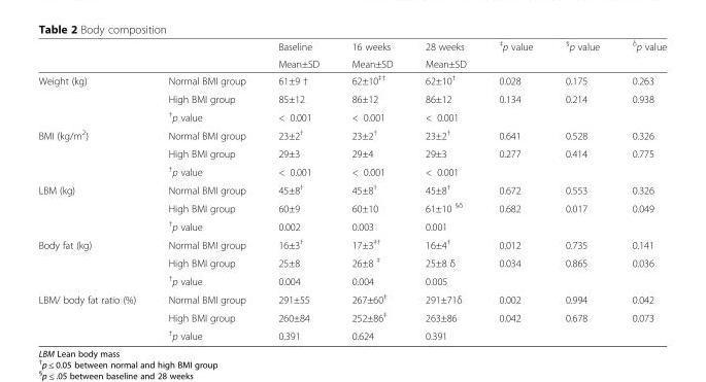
<table><thead><tr><td rowspan="2"></td><td rowspan="2"></td><td rowspan="2">Baseline Mean±SD</td><td rowspan="2">16 weeks Mean±SD</td><td rowspan="2">28 weeks Mean±SD</td><td rowspan="2"><sup>‡</sup>p value</td><td rowspan="2"><sup>§</sup>p value</td><td rowspan="2"><sup>δ</sup>p value</td></tr><tr></tr></thead><tbody><tr><td rowspan="3">Weight (kg)</td><td>Normal BMI group</td><td>61±9 †</td><td>62±10<sup>‡†</sup></td><td>62±10<sup>†</sup></td><td>0.028</td><td>0.175</td><td>0.263</td></tr><tr><td>High BMI group</td><td>85±12</td><td>86±12</td><td>86±12</td><td>0.134</td><td>0.214</td><td>0.938</td></tr><tr><td><sup>†</sup>p value</td><td>&lt; 0.001</td><td>&lt; 0.001</td><td>&lt; 0.001</td><td></td><td></td><td></td></tr><tr><td rowspan="3">BMI (kg/m<sup>2</sup>)</td><td>Normal BMI group</td><td>23±2<sup>†</sup></td><td>23±2<sup>†</sup></td><td>23±2<sup>†</sup></td><td>0.641</td><td>0.528</td><td>0.326</td></tr><tr><td>High BMI group</td><td>29±3</td><td>29±4</td><td>29±3</td><td>0.277</td><td>0.414</td><td>0.775</td></tr><tr><td><sup>†</sup>p value</td><td>&lt; 0.001</td><td>&lt; 0.001</td><td>&lt; 0.001</td><td></td><td></td><td></td></tr><tr><td rowspan="3">LBM (kg)</td><td>Normal BMI group</td><td>45±8<sup>†</sup></td><td>45±8<sup>†</sup></td><td>45±8<sup>†</sup></td><td>0.672</td><td>0.553</td><td>0.326</td></tr><tr><td>High BMI group</td><td>60±9</td><td>60±10</td><td>61±10 <sup>§δ</sup></td><td>0.682</td><td>0.017</td><td>0.049</td></tr><tr><td><sup>†</sup>p value</td><td>0.002</td><td>0.003</td><td>0.001</td><td></td><td></td><td></td></tr><tr><td rowspan="3">Body fat (kg)</td><td>Normal BMI group</td><td>16±3<sup>†</sup></td><td>17±3<sup>‡†</sup></td><td>16±4<sup>†</sup></td><td>0.012</td><td>0.735</td><td>0.141</td></tr><tr><td>High BMI group</td><td>25±8</td><td>26±8 <sup>‡</sup></td><td>25±8 δ</td><td>0.034</td><td>0.865</td><td>0.036</td></tr><tr><td><sup>†</sup>p value</td><td>0.004</td><td>0.004</td><td>0.005</td><td></td><td></td><td></td></tr><tr><td rowspan="3">LBM/ body fat ratio (%)</td><td>Normal BMI group</td><td>291±55</td><td>267±60<sup>‡</sup></td><td>291±71δ</td><td>0.002</td><td>0.994</td><td>0.042</td></tr><tr><td>High BMI group</td><td>260±84</td><td>252±86<sup>‡</sup></td><td>263±86</td><td>0.042</td><td>0.678</td><td>0.073</td></tr><tr><td><sup>†</sup>p value</td><td>0.391</td><td>0.624</td><td>0.391</td><td></td><td></td><td></td></tr></tbody></table>